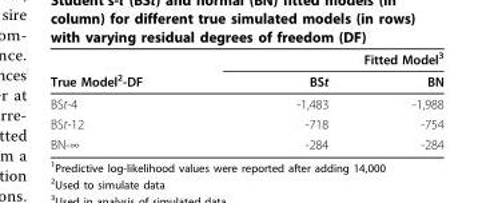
<table><thead><tr><td rowspan="2">True Model<sup>2</sup>-DF</td><td colspan="2">Fitted Model<sup>3</sup></td></tr><tr><td>BSt</td><td>BN</td></tr></thead><tbody><tr><td>BSt-4</td><td>-1,483</td><td>-1,988</td></tr><tr><td>BSt-12</td><td>-718</td><td>-754</td></tr><tr><td>BN-∞</td><td>-284</td><td>-284</td></tr></tbody></table>